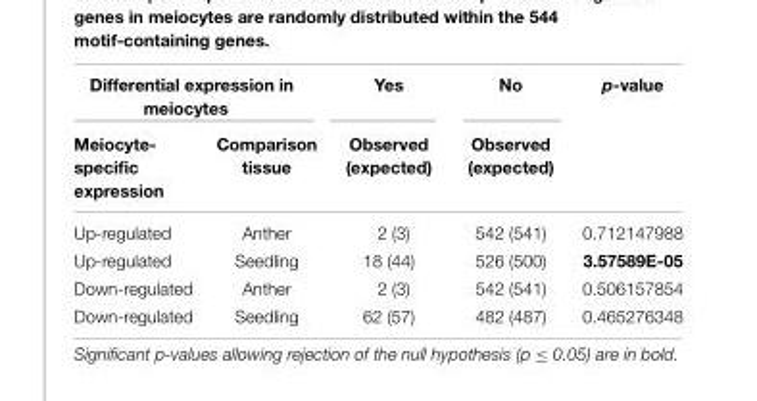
<table><thead><tr><td colspan="2">Differential expression in meiocytes</td><td rowspan="2">Yes Observed (expected)</td><td rowspan="2">No Observed (expected)</td><td rowspan="2">p-value</td></tr><tr><td>Meiocyte- specific expression</td><td>Comparison tissue</td></tr></thead><tbody><tr><td>Up-regulated</td><td>Anther</td><td>2 (3)</td><td>542 (541)</td><td>0.712147988</td></tr><tr><td>Up-regulated</td><td>Seedling</td><td>18 (44)</td><td>526 (500)</td><td>3.57589E-05</td></tr><tr><td>Down-regulated</td><td>Anther</td><td>2 (3)</td><td>542 (541)</td><td>0.506157854</td></tr><tr><td>Down-regulated</td><td>Seedling</td><td>62 (57)</td><td>482 (487)</td><td>0.465276348</td></tr></tbody></table>